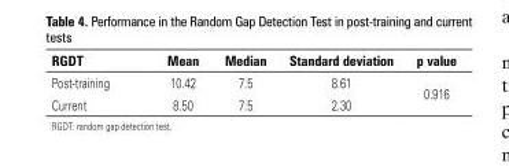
<table><thead><tr><td>RGDT</td><td>Mean</td><td>Median</td><td>Standard deviation</td><td>p value</td></tr></thead><tbody><tr><td>Post-training</td><td>10.42</td><td>7.5</td><td>8.61</td><td rowspan="2">0.916</td></tr><tr><td>Current</td><td>8.50</td><td>7.5</td><td>2.30</td></tr></tbody></table>